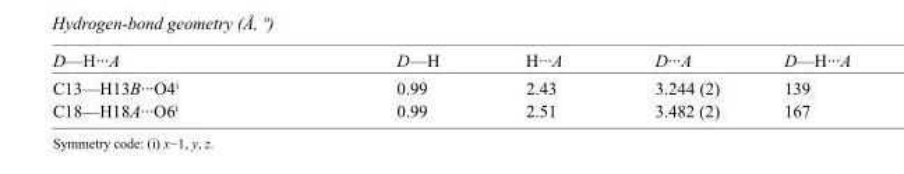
<table><tbody><tr><td>D—H···A</td><td>D—H</td><td>H···A</td><td>D···A</td><td>D—H···A</td></tr><tr><td>C13—H13B···O4<sup>i</sup></td><td>0.99</td><td>2.43</td><td>3.244 (2)</td><td>139</td></tr><tr><td>C18—H18A···O6<sup>i</sup></td><td>0.99</td><td>2.51</td><td>3.482 (2)</td><td>167</td></tr></tbody></table>